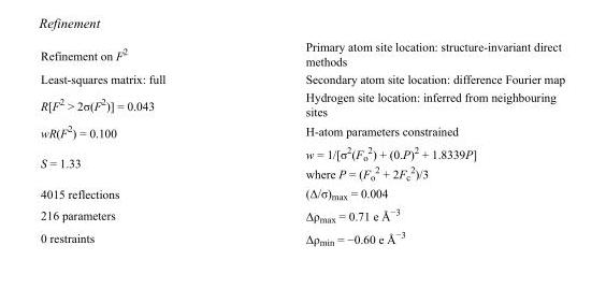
<table><tbody><tr><td>Refinement on F<sup>2</sup></td><td>Primary atom site location: structure-invariant direct methods</td></tr><tr><td>Least-squares matrix: full</td><td>Secondary atom site location: difference Fourier map</td></tr><tr><td>R[F<sup>2</sup> &gt; 2σ(F<sup>2</sup>)] = 0.043</td><td>Hydrogen site location: inferred from neighbouring sites</td></tr><tr><td>wR(F<sup>2</sup>) = 0.100</td><td>H-atom parameters constrained</td></tr><tr><td>S = 1.33</td><td>w = 1/[σ<sup>2</sup>(F<sub>o</sub> <sup>2</sup>) + (0.P)<sup>2</sup> + 1.8339P] where P = (F<sub>o</sub> <sup>2</sup> + 2F<sub>c</sub> <sup>2</sup>)/3</td></tr><tr><td>4015 reflections</td><td>(Δ/σ)<sub>max</sub> = 0.004</td></tr><tr><td>216 parameters</td><td>Δρ<sub>max</sub> = 0.71 e Å<sup>−3</sup></td></tr><tr><td>0 restraints</td><td>Δρ<sub>min</sub> = −0.60 e Å<sup>−3</sup></td></tr></tbody></table>